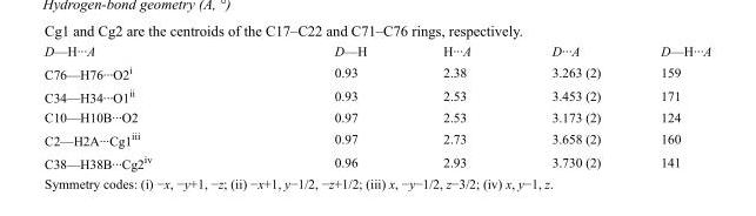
<table><tbody><tr><td>D—H···A</td><td>D—H</td><td>H···A</td><td>D···A</td><td>D—H···A</td></tr><tr><td>C76—H76···O2<sup>i</sup></td><td>0.93</td><td>2.38</td><td>3.263 (2)</td><td>159</td></tr><tr><td>C34—H34···O1<sup>ii</sup></td><td>0.93</td><td>2.53</td><td>3.453 (2)</td><td>171</td></tr><tr><td>C10—H10B···O2</td><td>0.97</td><td>2.53</td><td>3.173 (2)</td><td>124</td></tr><tr><td>C2—H2A···Cg1<sup>iii</sup></td><td>0.97</td><td>2.73</td><td>3.658 (2)</td><td>160</td></tr><tr><td>C38—H38B···Cg2<sup>iv</sup></td><td>0.96</td><td>2.93</td><td>3.730 (2)</td><td>141</td></tr></tbody></table>